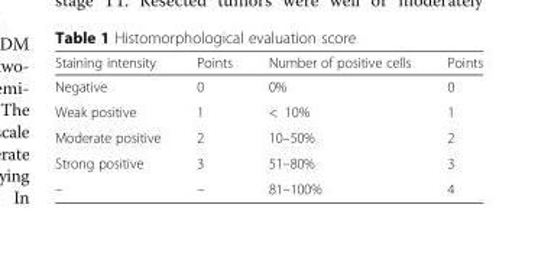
<table><thead><tr><td>Staining intensity</td><td>Points</td><td>Number of positive cells</td><td>Points</td></tr></thead><tbody><tr><td>Negative</td><td>0</td><td>0%</td><td>0</td></tr><tr><td>Weak positive</td><td>1</td><td>&lt; 10%</td><td>1</td></tr><tr><td>Moderate positive</td><td>2</td><td>10–50%</td><td>2</td></tr><tr><td>Strong positive</td><td>3</td><td>51–80%</td><td>3</td></tr><tr><td>–</td><td>–</td><td>81–100%</td><td>4</td></tr></tbody></table>